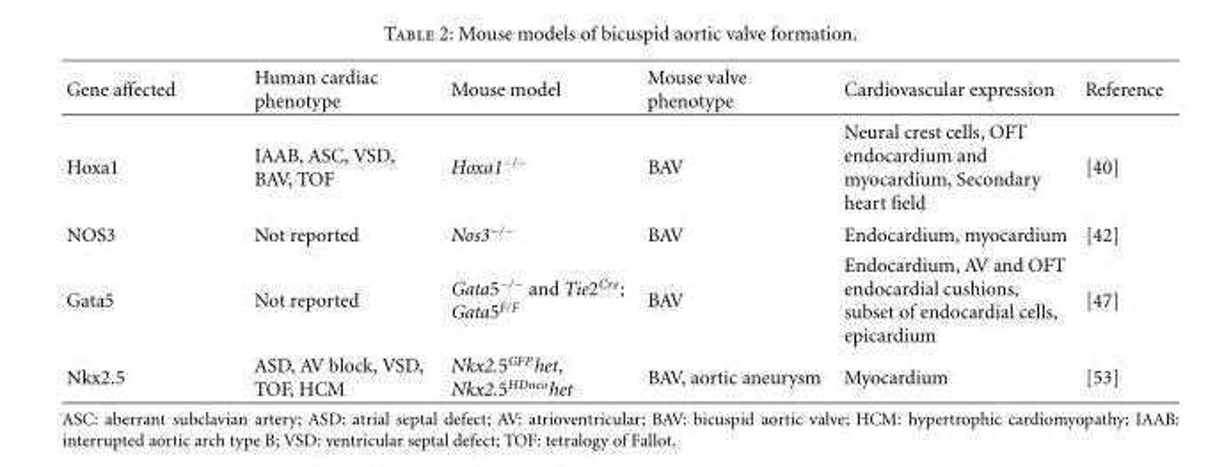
<table><thead><tr><td>Gene affected</td><td>Human cardiac phenotype</td><td>Mouse model</td><td>Mouse valve phenotype</td><td>Cardiovascular expression</td><td>Reference</td></tr></thead><tbody><tr><td>Hoxa1</td><td>IAAB, ASC, VSD, BAV, TOF</td><td>Hoxa1<sup>−/−</sup></td><td>BAV</td><td>Neural crest cells, OFT endocardium and myocardium, Secondary heart field</td><td>[40]</td></tr><tr><td>NOS3</td><td>Not reported</td><td>Nos3<sup>−/−</sup></td><td>BAV</td><td>Endocardium, myocardium</td><td>[42]</td></tr><tr><td>Gata5</td><td>Not reported</td><td>Gata5<sup>−/−</sup> and Tie2<sup>Cre</sup>; Gata5<sup>F/F</sup></td><td>BAV</td><td>Endocardium, AV and OFT endocardial cushions, subset of endocardial cells, epicardium</td><td>[47]</td></tr><tr><td>Nkx2.5</td><td>ASD, AV block, VSD, TOF, HCM</td><td>Nkx2.5<sup>GFP</sup>het, Nkx2.5<sup>HDneo</sup>het</td><td>BAV, aortic aneurysm</td><td>Myocardium</td><td>[53]</td></tr></tbody></table>